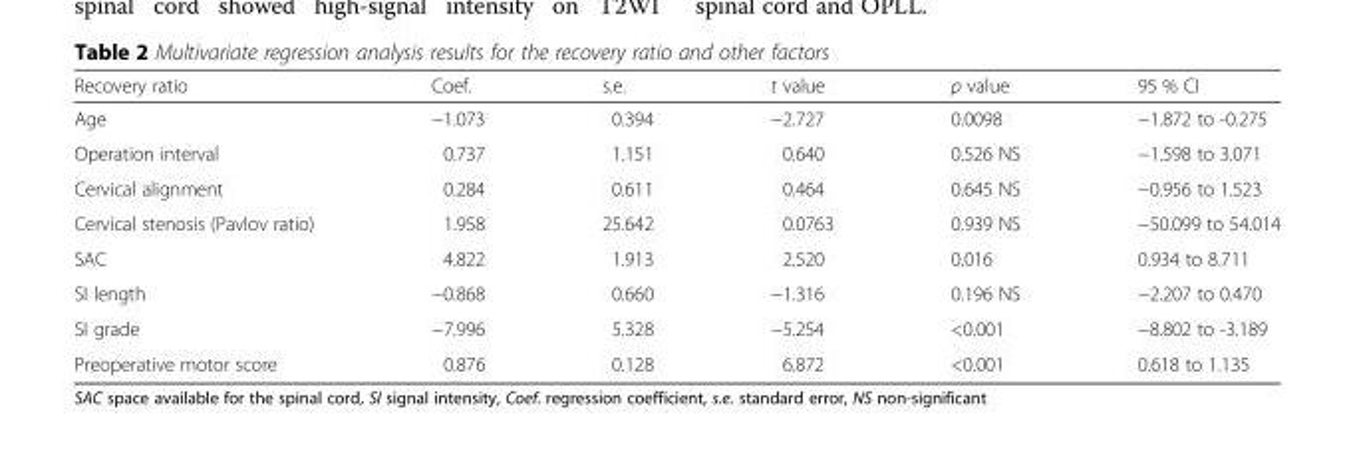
<table><thead><tr><td>Recovery ratio</td><td>Coef.</td><td>s.e.</td><td>t value</td><td>p value</td><td>95 % CI</td></tr></thead><tbody><tr><td>Age</td><td>−1.073</td><td>0.394</td><td>−2.727</td><td>0.0098</td><td>−1.872 to -0.275</td></tr><tr><td>Operation interval</td><td>0.737</td><td>1.151</td><td>0.640</td><td>0.526 NS</td><td>−1.598 to 3.071</td></tr><tr><td>Cervical alignment</td><td>0.284</td><td>0.611</td><td>0.464</td><td>0.645 NS</td><td>−0.956 to 1.523</td></tr><tr><td>Cervical stenosis (Pavlov ratio)</td><td>1.958</td><td>25.642</td><td>0.0763</td><td>0.939 NS</td><td>−50.099 to 54.014</td></tr><tr><td>SAC</td><td>4.822</td><td>1.913</td><td>2.520</td><td>0.016</td><td>0.934 to 8.711</td></tr><tr><td>SI length</td><td>−0.868</td><td>0.660</td><td>−1.316</td><td>0.196 NS</td><td>−2.207 to 0.470</td></tr><tr><td>SI grade</td><td>−7.996</td><td>5.328</td><td>−5.254</td><td>&lt;0.001</td><td>−8.802 to -3.189</td></tr><tr><td>Preoperative motor score</td><td>0.876</td><td>0.128</td><td>6.872</td><td>&lt;0.001</td><td>0.618 to 1.135</td></tr></tbody></table>